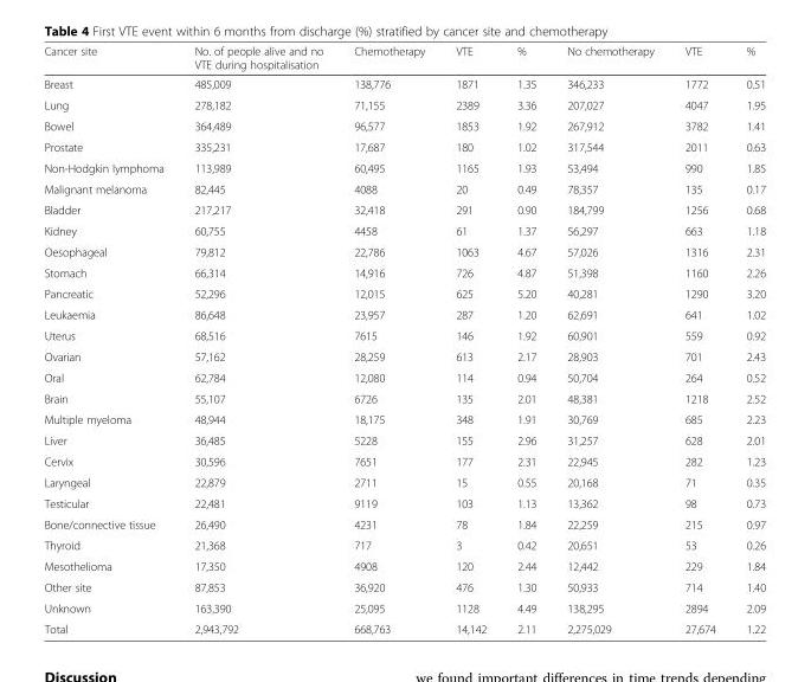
<table><thead><tr><td>Cancer site</td><td>No. of people alive and no VTE during hospitalisation</td><td>Chemotherapy</td><td>VTE</td><td>%</td><td>No chemotherapy</td><td>VTE</td><td>%</td></tr></thead><tbody><tr><td>Breast</td><td>485,009</td><td>138,776</td><td>1871</td><td>1.35</td><td>346,233</td><td>1772</td><td>0.51</td></tr><tr><td>Lung</td><td>278,182</td><td>71,155</td><td>2389</td><td>3.36</td><td>207,027</td><td>4047</td><td>1.95</td></tr><tr><td>Bowel</td><td>364,489</td><td>96,577</td><td>1853</td><td>1.92</td><td>267,912</td><td>3782</td><td>1.41</td></tr><tr><td>Prostate</td><td>335,231</td><td>17,687</td><td>180</td><td>1.02</td><td>317,544</td><td>2011</td><td>0.63</td></tr><tr><td>Non-Hodgkin lymphoma</td><td>113,989</td><td>60,495</td><td>1165</td><td>1.93</td><td>53,494</td><td>990</td><td>1.85</td></tr><tr><td>Malignant melanoma</td><td>82,445</td><td>4088</td><td>20</td><td>0.49</td><td>78,357</td><td>135</td><td>0.17</td></tr><tr><td>Bladder</td><td>217,217</td><td>32,418</td><td>291</td><td>0.90</td><td>184,799</td><td>1256</td><td>0.68</td></tr><tr><td>Kidney</td><td>60,755</td><td>4458</td><td>61</td><td>1.37</td><td>56,297</td><td>663</td><td>1.18</td></tr><tr><td>Oesophageal</td><td>79,812</td><td>22,786</td><td>1063</td><td>4.67</td><td>57,026</td><td>1316</td><td>2.31</td></tr><tr><td>Stomach</td><td>66,314</td><td>14,916</td><td>726</td><td>4.87</td><td>51,398</td><td>1160</td><td>2.26</td></tr><tr><td>Pancreatic</td><td>52,296</td><td>12,015</td><td>625</td><td>5.20</td><td>40,281</td><td>1290</td><td>3.20</td></tr><tr><td>Leukaemia</td><td>86,648</td><td>23,957</td><td>287</td><td>1.20</td><td>62,691</td><td>641</td><td>1.02</td></tr><tr><td>Uterus</td><td>68,516</td><td>7615</td><td>146</td><td>1.92</td><td>60,901</td><td>559</td><td>0.92</td></tr><tr><td>Ovarian</td><td>57,162</td><td>28,259</td><td>613</td><td>2.17</td><td>28,903</td><td>701</td><td>2.43</td></tr><tr><td>Oral</td><td>62,784</td><td>12,080</td><td>114</td><td>0.94</td><td>50,704</td><td>264</td><td>0.52</td></tr><tr><td>Brain</td><td>55,107</td><td>6726</td><td>135</td><td>2.01</td><td>48,381</td><td>1218</td><td>2.52</td></tr><tr><td>Multiple myeloma</td><td>48,944</td><td>18,175</td><td>348</td><td>1.91</td><td>30,769</td><td>685</td><td>2.23</td></tr><tr><td>Liver</td><td>36,485</td><td>5228</td><td>155</td><td>2.96</td><td>31,257</td><td>628</td><td>2.01</td></tr><tr><td>Cervix</td><td>30,596</td><td>7651</td><td>177</td><td>2.31</td><td>22,945</td><td>282</td><td>1.23</td></tr><tr><td>Laryngeal</td><td>22,879</td><td>2711</td><td>15</td><td>0.55</td><td>20,168</td><td>71</td><td>0.35</td></tr><tr><td>Testicular</td><td>22,481</td><td>9119</td><td>103</td><td>1.13</td><td>13,362</td><td>98</td><td>0.73</td></tr><tr><td>Bone/connective tissue</td><td>26,490</td><td>4231</td><td>78</td><td>1.84</td><td>22,259</td><td>215</td><td>0.97</td></tr><tr><td>Thyroid</td><td>21,368</td><td>717</td><td>3</td><td>0.42</td><td>20,651</td><td>53</td><td>0.26</td></tr><tr><td>Mesothelioma</td><td>17,350</td><td>4908</td><td>120</td><td>2.44</td><td>12,442</td><td>229</td><td>1.84</td></tr><tr><td>Other site</td><td>87,853</td><td>36,920</td><td>476</td><td>1.30</td><td>50,933</td><td>714</td><td>1.40</td></tr><tr><td>Unknown</td><td>163,390</td><td>25,095</td><td>1128</td><td>4.49</td><td>138,295</td><td>2894</td><td>2.09</td></tr><tr><td>Total</td><td>2,943,792</td><td>668,763</td><td>14,142</td><td>2.11</td><td>2,275,029</td><td>27,674</td><td>1.22</td></tr></tbody></table>